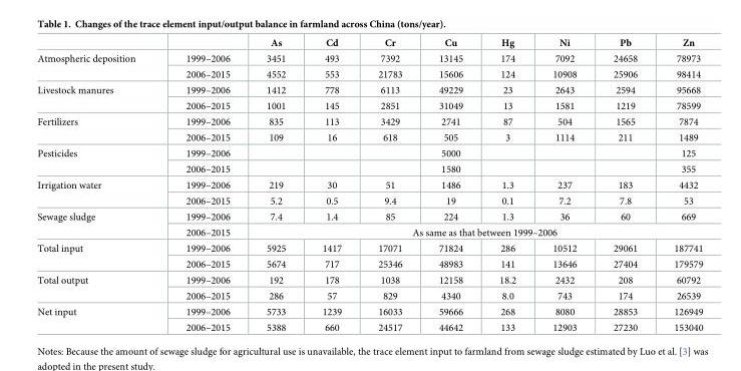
<table><thead><tr><td></td><td></td><td>As</td><td>Cd</td><td>Cr</td><td>Cu</td><td>Hg</td><td>Ni</td><td>Pb</td><td>Zn</td></tr></thead><tbody><tr><td rowspan="2">Atmospheric deposition</td><td>1999–2006</td><td>3451</td><td>493</td><td>7392</td><td>13145</td><td>174</td><td>7092</td><td>24658</td><td>78973</td></tr><tr><td>2006–2015</td><td>4552</td><td>553</td><td>21783</td><td>15606</td><td>124</td><td>10908</td><td>25906</td><td>98414</td></tr><tr><td rowspan="2">Livestock manures</td><td>1999–2006</td><td>1412</td><td>778</td><td>6113</td><td>49229</td><td>23</td><td>2643</td><td>2594</td><td>95668</td></tr><tr><td>2006–2015</td><td>1001</td><td>145</td><td>2851</td><td>31049</td><td>13</td><td>1581</td><td>1219</td><td>78599</td></tr><tr><td rowspan="2">Fertilizers</td><td>1999–2006</td><td>835</td><td>113</td><td>3429</td><td>2741</td><td>87</td><td>504</td><td>1565</td><td>7874</td></tr><tr><td>2006–2015</td><td>109</td><td>16</td><td>618</td><td>505</td><td>3</td><td>1114</td><td>211</td><td>1489</td></tr><tr><td rowspan="2">Pesticides</td><td>1999–2006</td><td></td><td></td><td></td><td>5000</td><td></td><td></td><td></td><td>125</td></tr><tr><td>2006–2015</td><td></td><td></td><td></td><td>1580</td><td></td><td></td><td></td><td>355</td></tr><tr><td rowspan="2">Irrigation water</td><td>1999–2006</td><td>219</td><td>30</td><td>51</td><td>1486</td><td>1.3</td><td>237</td><td>183</td><td>4432</td></tr><tr><td>2006–2015</td><td>5.2</td><td>0.5</td><td>9.4</td><td>19</td><td>0.1</td><td>7.2</td><td>7.8</td><td>53</td></tr><tr><td rowspan="2">Sewage sludge</td><td>1999–2006</td><td>7.4</td><td>1.4</td><td>85</td><td>224</td><td>1.3</td><td>36</td><td>60</td><td>669</td></tr><tr><td>2006–2015</td><td colspan="8">As same as that between 1999–2006</td></tr><tr><td rowspan="2">Total input</td><td>1999–2006</td><td>5925</td><td>1417</td><td>17071</td><td>71824</td><td>286</td><td>10512</td><td>29061</td><td>187741</td></tr><tr><td>2006–2015</td><td>5674</td><td>717</td><td>25346</td><td>48983</td><td>141</td><td>13646</td><td>27404</td><td>179579</td></tr><tr><td rowspan="2">Total output</td><td>1999–2006</td><td>192</td><td>178</td><td>1038</td><td>12158</td><td>18.2</td><td>2432</td><td>208</td><td>60792</td></tr><tr><td>2006–2015</td><td>286</td><td>57</td><td>829</td><td>4340</td><td>8.0</td><td>743</td><td>174</td><td>26539</td></tr><tr><td rowspan="2">Net input</td><td>1999–2006</td><td>5733</td><td>1239</td><td>16033</td><td>59666</td><td>268</td><td>8080</td><td>28853</td><td>126949</td></tr><tr><td>2006–2015</td><td>5388</td><td>660</td><td>24517</td><td>44642</td><td>133</td><td>12903</td><td>27230</td><td>153040</td></tr></tbody></table>